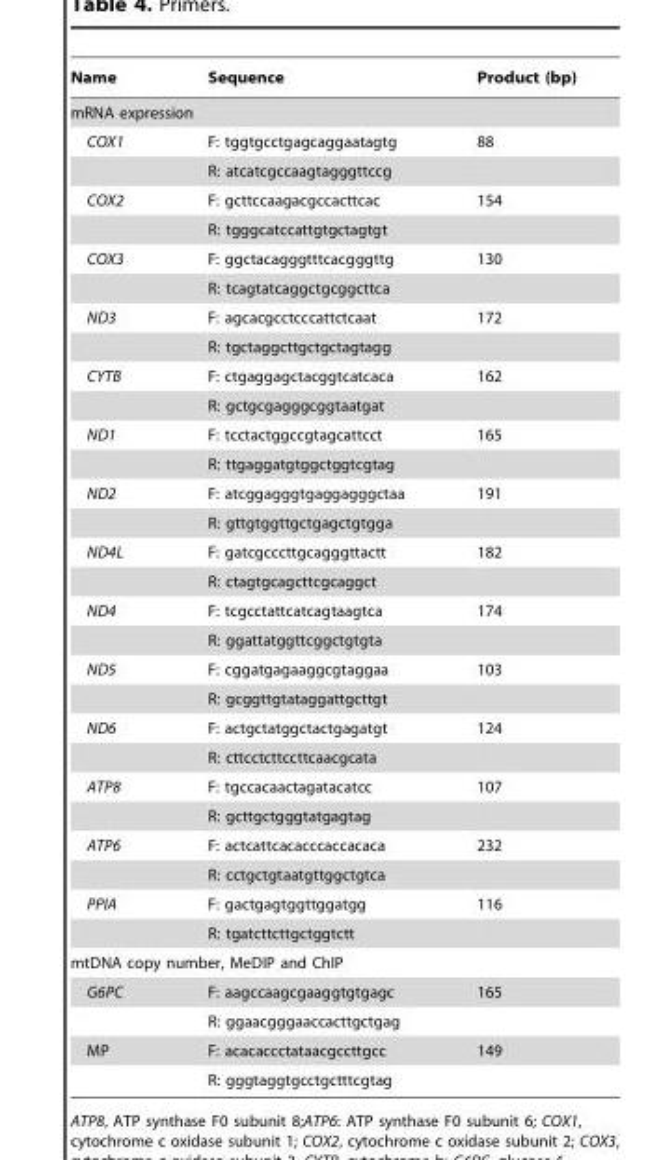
<table><thead><tr><td>Name</td><td>Sequence</td><td>Product (bp)</td></tr></thead><tbody><tr><td colspan="3">mRNA expression</td></tr><tr><td rowspan="2">COX1</td><td>F: tggtgcctgagcaggaatagtg</td><td>88</td></tr><tr><td>R: atcatcgccaagtagggttccg</td><td></td></tr><tr><td rowspan="2">COX2</td><td>F: gcttccaagacgccacttcac</td><td>154</td></tr><tr><td>R: tgggcatccattgtgctagtgt</td><td></td></tr><tr><td rowspan="2">COX3</td><td>F: ggctacagggtttcacgggttg</td><td>130</td></tr><tr><td>R: tcagtatcaggctgcggcttca</td><td></td></tr><tr><td rowspan="2">ND3</td><td>F: agcacgcctcccattctcaat</td><td>172</td></tr><tr><td>R: tgctaggcttgctgctagtagg</td><td></td></tr><tr><td rowspan="2">CYTB</td><td>F: ctgaggagctacggtcatcaca</td><td>162</td></tr><tr><td>R: gctgcgagggcggtaatgat</td><td></td></tr><tr><td rowspan="2">ND1</td><td>F: tcctactggccgtagcattcct</td><td>165</td></tr><tr><td>R: ttgaggatgtggctggtcgtag</td><td></td></tr><tr><td rowspan="2">ND2</td><td>F: atcggagggtgaggagggctaa</td><td>191</td></tr><tr><td>R: gttgtggttgctgagctgtgga</td><td></td></tr><tr><td rowspan="2">ND4L</td><td>F: gatcgcccttgcagggttactt</td><td>182</td></tr><tr><td>R: ctagtgcagcttcgcaggct</td><td></td></tr><tr><td rowspan="2">ND4</td><td>F: tcgcctattcatcagtaagtca</td><td>174</td></tr><tr><td>R: ggattatggttcggctgtgta</td><td></td></tr><tr><td rowspan="2">ND5</td><td>F: cggatgagaaggcgtaggaa</td><td>103</td></tr><tr><td>R: gcggttgtataggattgcttgt</td><td></td></tr><tr><td rowspan="2">ND6</td><td>F: actgctatggctactgagatgt</td><td>124</td></tr><tr><td>R: cttcctcttccttcaacgcata</td><td></td></tr><tr><td rowspan="2">ATP8</td><td>F: tgccacaactagatacatcc</td><td>107</td></tr><tr><td>R: gcttgctgggtatgagtag</td><td></td></tr><tr><td rowspan="2">ATP6</td><td>F: actcattcacacccaccacaca</td><td>232</td></tr><tr><td>R: cctgctgtaatgttggctgtca</td><td></td></tr><tr><td rowspan="2">PPIA</td><td>F: gactgagtggttggatgg</td><td>116</td></tr><tr><td>R: tgatcttcttgctggtctt</td><td></td></tr><tr><td colspan="3">mtDNA copy number, MeDIP and ChIP</td></tr><tr><td rowspan="2">G6PC</td><td>F: aagccaagcgaaggtgtgagc</td><td>165</td></tr><tr><td>R: ggaacgggaaccacttgctgag</td><td></td></tr><tr><td rowspan="2">MP</td><td>F: acacaccctataacgccttgcc</td><td>149</td></tr><tr><td>R: gggtaggtgcctgctttcgtag</td><td></td></tr></tbody></table>